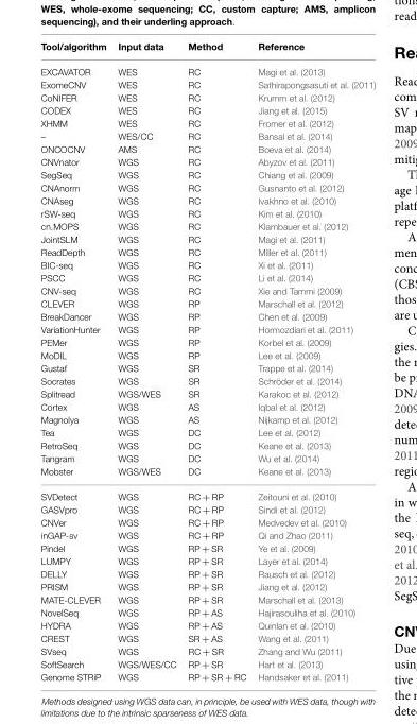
<table><thead><tr><td>Tool/algorithm</td><td>Input data</td><td>Method</td><td>Reference</td></tr></thead><tbody><tr><td>EXCAVATOR</td><td>WES</td><td>RC</td><td>Magi et al. (2013)</td></tr><tr><td>ExomeCNV</td><td>WES</td><td>RC</td><td>Sathirapongsasuti et al. (2011)</td></tr><tr><td>CoNIFER</td><td>WES</td><td>RC</td><td>Krumm et al. (2012)</td></tr><tr><td>CODEX</td><td>WES</td><td>RC</td><td>Jiang et al. (2015)</td></tr><tr><td>XHMM</td><td>WES</td><td>RC</td><td>Fromer et al. (2012)</td></tr><tr><td>–</td><td>WES/CC</td><td>RC</td><td>Bansal et al. (2014)</td></tr><tr><td>ONCOCNV</td><td>AMS</td><td>RC</td><td>Boeva et al. (2014)</td></tr><tr><td>CNVnator</td><td>WGS</td><td>RC</td><td>Abyzov et al. (2011)</td></tr><tr><td>SegSeq</td><td>WGS</td><td>RC</td><td>Chiang et al. (2009)</td></tr><tr><td>CNAnorm</td><td>WGS</td><td>RC</td><td>Gusnanto et al. (2012)</td></tr><tr><td>CNAseg</td><td>WGS</td><td>RC</td><td>Ivakhno et al. (2010)</td></tr><tr><td>rSW-seq</td><td>WGS</td><td>RC</td><td>Kim et al. (2010)</td></tr><tr><td>cn.MOPS</td><td>WGS</td><td>RC</td><td>Klambauer et al. (2012)</td></tr><tr><td>JointSLM</td><td>WGS</td><td>RC</td><td>Magi et al. (2011)</td></tr><tr><td>ReadDepth</td><td>WGS</td><td>RC</td><td>Miller et al. (2011)</td></tr><tr><td>BIC-seq</td><td>WGS</td><td>RC</td><td>Xi et al. (2011)</td></tr><tr><td>PSCC</td><td>WGS</td><td>RC</td><td>Li et al. (2014)</td></tr><tr><td>CNV-seq</td><td>WGS</td><td>RC</td><td>Xie and Tammi (2009)</td></tr><tr><td>CLEVER</td><td>WGS</td><td>RP</td><td>Marschall et al. (2012)</td></tr><tr><td>BreakDancer</td><td>WGS</td><td>RP</td><td>Chen et al. (2009)</td></tr><tr><td>VariationHunter</td><td>WGS</td><td>RP</td><td>Hormozdiari et al. (2011)</td></tr><tr><td>PEMer</td><td>WGS</td><td>RP</td><td>Korbel et al. (2009)</td></tr><tr><td>MoDIL</td><td>WGS</td><td>RP</td><td>Lee et al. (2009)</td></tr><tr><td>Gustaf</td><td>WGS</td><td>SR</td><td>Trappe et al. (2014)</td></tr><tr><td>Socrates</td><td>WGS</td><td>SR</td><td>Schröder et al. (2014)</td></tr><tr><td>Splitread</td><td>WGS/WES</td><td>SR</td><td>Karakoc et al. (2012)</td></tr><tr><td>Cortex</td><td>WGS</td><td>AS</td><td>Iqbal et al. (2012)</td></tr><tr><td>Magnolya</td><td>WGS</td><td>AS</td><td>Nijkamp et al. (2012)</td></tr><tr><td>Tea</td><td>WGS</td><td>DC</td><td>Lee et al. (2012)</td></tr><tr><td>RetroSeq</td><td>WGS</td><td>DC</td><td>Keane et al. (2013)</td></tr><tr><td>Tangram</td><td>WGS</td><td>DC</td><td>Wu et al. (2014)</td></tr><tr><td>Mobster</td><td>WGS/WES</td><td>DC</td><td>Keane et al. (2013)</td></tr><tr><td>SVDetect</td><td>WGS</td><td>RC + RP</td><td>Zeitouni et al. (2010)</td></tr><tr><td>GASVpro</td><td>WGS</td><td>RC + RP</td><td>Sindi et al. (2012)</td></tr><tr><td>CNVer</td><td>WGS</td><td>RC + RP</td><td>Medvedev et al. (2010)</td></tr><tr><td>inGAP-sv</td><td>WGS</td><td>RC + RP</td><td>Qi and Zhao (2011)</td></tr><tr><td>Pindel</td><td>WGS</td><td>RP + SR</td><td>Ye et al. (2009)</td></tr><tr><td>LUMPY</td><td>WGS</td><td>RP + SR</td><td>Layer et al. (2014)</td></tr><tr><td>DELLY</td><td>WGS</td><td>RP + SR</td><td>Rausch et al. (2012)</td></tr><tr><td>PRISM</td><td>WGS</td><td>RP + SR</td><td>Jiang et al. (2012)</td></tr><tr><td>MATE-CLEVER</td><td>WGS</td><td>RP + SR</td><td>Marschall et al. (2013)</td></tr><tr><td>NovelSeq</td><td>WGS</td><td>RP + AS</td><td>Hajirasouliha et al. (2010)</td></tr><tr><td>HYDRA</td><td>WGS</td><td>RP + AS</td><td>Quinlan et al. (2010)</td></tr><tr><td>CREST</td><td>WGS</td><td>SR + AS</td><td>Wang et al. (2011)</td></tr><tr><td>SVseq</td><td>WGS</td><td>RC + SR</td><td>Zhang and Wu (2011)</td></tr><tr><td>SoftSearch</td><td>WGS/WES/CC</td><td>RP + SR</td><td>Hart et al. (2013)</td></tr><tr><td>Genome STRiP</td><td>WGS</td><td>RP + SR + RC</td><td>Handsaker et al. (2011)</td></tr></tbody></table>